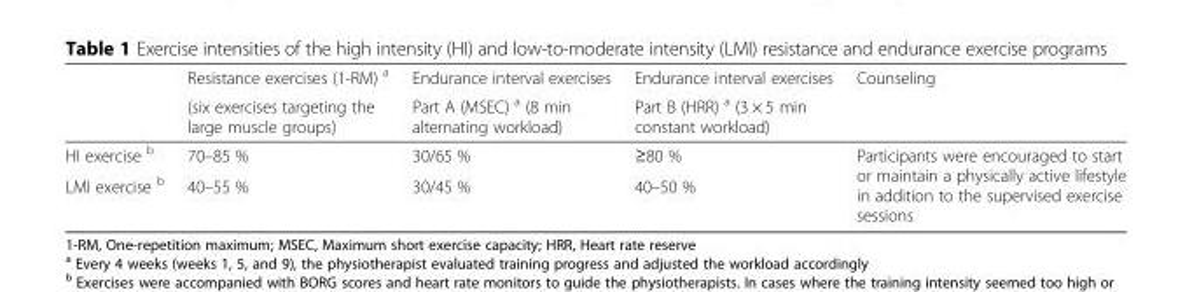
<table><thead><tr><td rowspan="2"></td><td rowspan="2">Resistance exercises (1-RM) <sup>a</sup> (six exercises targeting the large muscle groups)</td><td rowspan="2">Endurance interval exercises Part A (MSEC) <sup>a</sup> (8 min alternating workload)</td><td rowspan="2">Endurance interval exercises Part B (HRR) <sup>a</sup> (3 × 5 min constant workload)</td><td rowspan="2">Counseling</td></tr><tr></tr></thead><tbody><tr><td>HI exercise <sup>b</sup></td><td>70–85 %</td><td>30/65 %</td><td>≥80 %</td><td rowspan="2">Participants were encouraged to start or maintain a physically active lifestyle in addition to the supervised exercise sessions</td></tr><tr><td>LMI exercise <sup>b</sup></td><td>40–55 %</td><td>30/45 %</td><td>40–50 %</td></tr></tbody></table>